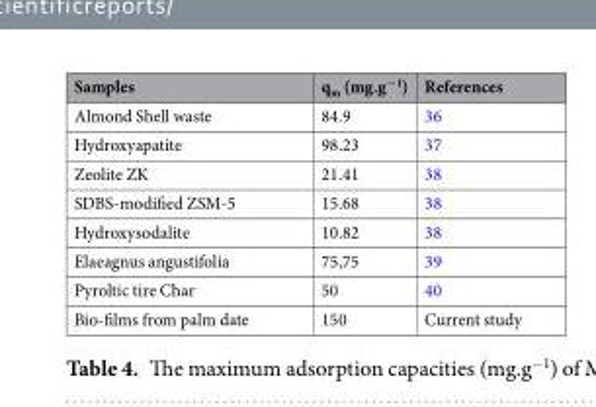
<table><thead><tr><td>Samples</td><td>q<sub>m</sub> (mg.g<sup>−1</sup>)</td><td>References</td></tr></thead><tbody><tr><td>Almond Shell waste</td><td>84.9</td><td>36</td></tr><tr><td>Hydroxyapatite</td><td>98.23</td><td>37</td></tr><tr><td>Zeolite ZK</td><td>21.41</td><td>38</td></tr><tr><td>SDBS-modified ZSM-5</td><td>15.68</td><td>38</td></tr><tr><td>Hydroxysodalite</td><td>10.82</td><td>38</td></tr><tr><td>Elaeagnus angustifolia</td><td>75,75</td><td>39</td></tr><tr><td>Pyroltic tire Char</td><td>50</td><td>40</td></tr><tr><td>Bio-films from palm date</td><td>150</td><td>Current study</td></tr></tbody></table>